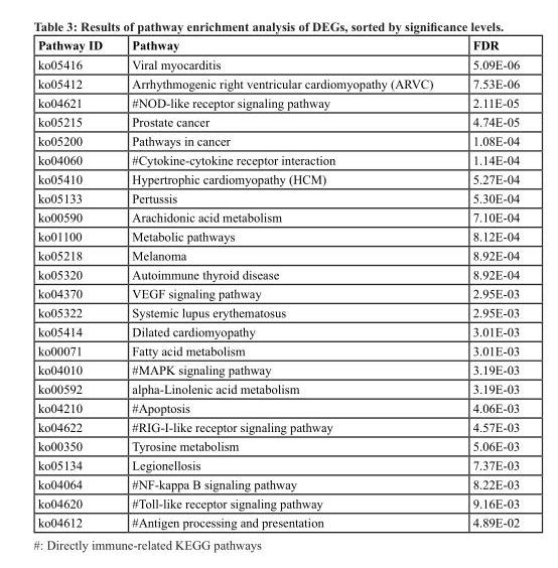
<table><thead><tr><td>Pathway ID</td><td>Pathway</td><td>FDR</td></tr></thead><tbody><tr><td>ko05416</td><td>Viral myocarditis</td><td>5.09E-06</td></tr><tr><td>ko05412</td><td>Arrhythmogenic right ventricular cardiomyopathy (ARVC)</td><td>7.53E-06</td></tr><tr><td>ko04621</td><td>#NOD-like receptor signaling pathway</td><td>2.11E-05</td></tr><tr><td>ko05215</td><td>Prostate cancer</td><td>4.74E-05</td></tr><tr><td>ko05200</td><td>Pathways in cancer</td><td>1.08E-04</td></tr><tr><td>ko04060</td><td>#Cytokine-cytokine receptor interaction</td><td>1.14E-04</td></tr><tr><td>ko05410</td><td>Hypertrophic cardiomyopathy (HCM)</td><td>5.27E-04</td></tr><tr><td>ko05133</td><td>Pertussis</td><td>5.30E-04</td></tr><tr><td>ko00590</td><td>Arachidonic acid metabolism</td><td>7.10E-04</td></tr><tr><td>ko01100</td><td>Metabolic pathways</td><td>8.12E-04</td></tr><tr><td>ko05218</td><td>Melanoma</td><td>8.92E-04</td></tr><tr><td>ko05320</td><td>Autoimmune thyroid disease</td><td>8.92E-04</td></tr><tr><td>ko04370</td><td>VEGF signaling pathway</td><td>2.95E-03</td></tr><tr><td>ko05322</td><td>Systemic lupus erythematosus</td><td>2.95E-03</td></tr><tr><td>ko05414</td><td>Dilated cardiomyopathy</td><td>3.01E-03</td></tr><tr><td>ko00071</td><td>Fatty acid metabolism</td><td>3.01E-03</td></tr><tr><td>ko04010</td><td>#MAPK signaling pathway</td><td>3.19E-03</td></tr><tr><td>ko00592</td><td>alpha-Linolenic acid metabolism</td><td>3.19E-03</td></tr><tr><td>ko04210</td><td>#Apoptosis</td><td>4.06E-03</td></tr><tr><td>ko04622</td><td>#RIG-I-like receptor signaling pathway</td><td>4.57E-03</td></tr><tr><td>ko00350</td><td>Tyrosine metabolism</td><td>5.06E-03</td></tr><tr><td>ko05134</td><td>Legionellosis</td><td>7.37E-03</td></tr><tr><td>ko04064</td><td>#NF-kappa B signaling pathway</td><td>8.22E-03</td></tr><tr><td>ko04620</td><td>#Toll-like receptor signaling pathway</td><td>9.16E-03</td></tr><tr><td>ko04612</td><td>#Antigen processing and presentation</td><td>4.89E-02</td></tr></tbody></table>